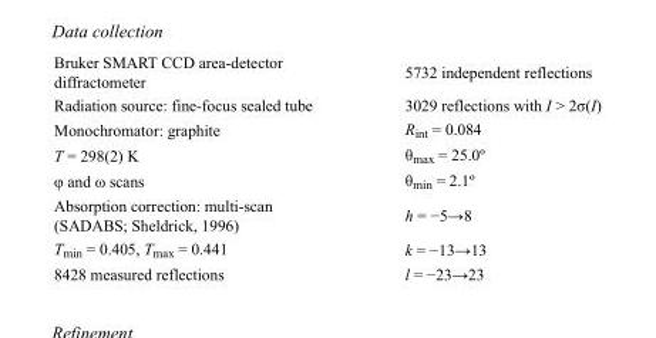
<table><tbody><tr><td>Bruker SMART CCD area-detector diffractometer</td><td>5732 independent reflections</td></tr><tr><td>Radiation source: fine-focus sealed tube</td><td>3029 reflections with I &gt; 2σ(I)</td></tr><tr><td>Monochromator: graphite</td><td>R<sub>int</sub> = 0.084</td></tr><tr><td>T = 298(2) K</td><td>θ<sub>max</sub> = 25.0º</td></tr><tr><td>φ and ω scans</td><td>θ<sub>min</sub> = 2.1º</td></tr><tr><td>Absorption correction: multi-scan (SADABS; Sheldrick, 1996)</td><td>h = −5→8</td></tr><tr><td>T<sub>min</sub> = 0.405, T<sub>max</sub> = 0.441</td><td>k = −13→13</td></tr><tr><td>8428 measured reflections</td><td>l = −23→23</td></tr></tbody></table>